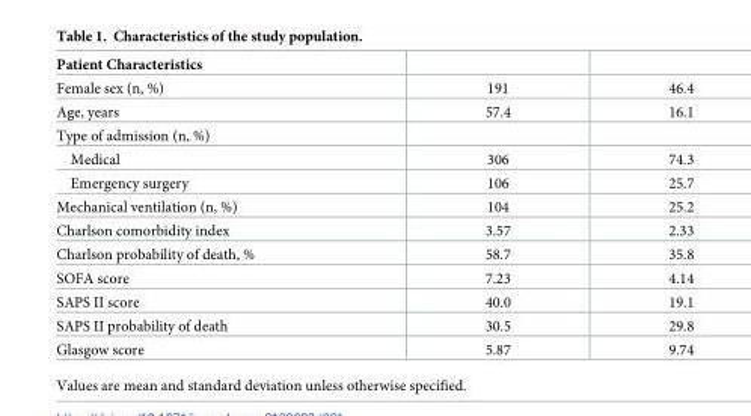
<table><thead><tr><td>Patient Characteristics</td><td></td><td></td></tr></thead><tbody><tr><td>Female sex (n, %)</td><td>191</td><td>46.4</td></tr><tr><td>Age, years</td><td>57.4</td><td>16.1</td></tr><tr><td colspan="3">Type of admission (n, %)</td></tr><tr><td>Medical</td><td>306</td><td>74.3</td></tr><tr><td>Emergency surgery</td><td>106</td><td>25.7</td></tr><tr><td>Mechanical ventilation (n, %)</td><td>104</td><td>25.2</td></tr><tr><td>Charlson comorbidity index</td><td>3.57</td><td>2.33</td></tr><tr><td>Charlson probability of death, %</td><td>58.7</td><td>35.8</td></tr><tr><td>SOFA score</td><td>7.23</td><td>4.14</td></tr><tr><td>SAPS II score</td><td>40.0</td><td>19.1</td></tr><tr><td>SAPS II probability of death</td><td>30.5</td><td>29.8</td></tr><tr><td>Glasgow score</td><td>5.87</td><td>9.74</td></tr></tbody></table>